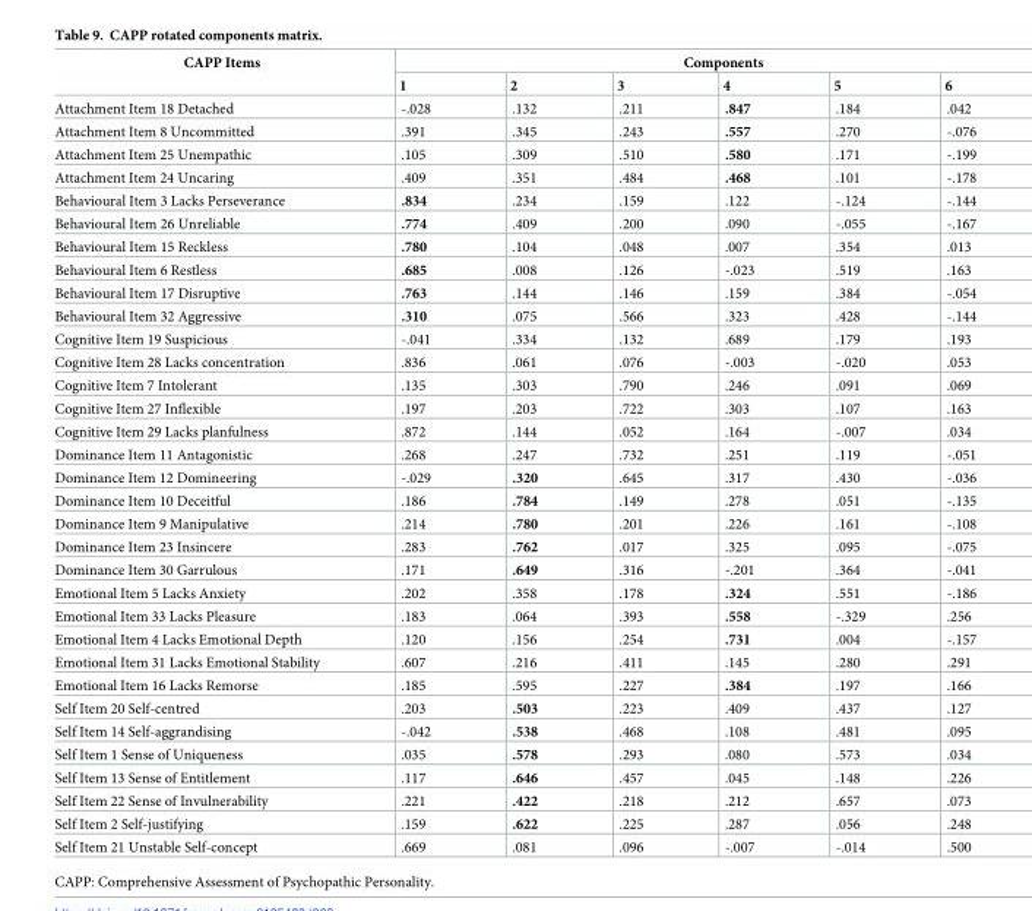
<table><thead><tr><td rowspan="2">CAPP Items</td><td colspan="6">Components</td></tr><tr><td>1</td><td>2</td><td>3</td><td>4</td><td>5</td><td>6</td></tr></thead><tbody><tr><td>Attachment Item 18 Detached</td><td>-.028</td><td>.132</td><td>.211</td><td>.847</td><td>.184</td><td>.042</td></tr><tr><td>Attachment Item 8 Uncommitted</td><td>.391</td><td>.345</td><td>.243</td><td>.557</td><td>.270</td><td>-.076</td></tr><tr><td>Attachment Item 25 Unempathic</td><td>.105</td><td>.309</td><td>.510</td><td>.580</td><td>.171</td><td>-.199</td></tr><tr><td>Attachment Item 24 Uncaring</td><td>.409</td><td>.351</td><td>.484</td><td>.468</td><td>.101</td><td>-.178</td></tr><tr><td>Behavioural Item 3 Lacks Perseverance</td><td>.834</td><td>.234</td><td>.159</td><td>.122</td><td>-.124</td><td>-.144</td></tr><tr><td>Behavioural Item 26 Unreliable</td><td>.774</td><td>.409</td><td>.200</td><td>.090</td><td>-.055</td><td>-.167</td></tr><tr><td>Behavioural Item 15 Reckless</td><td>.780</td><td>.104</td><td>.048</td><td>.007</td><td>.354</td><td>.013</td></tr><tr><td>Behavioural Item 6 Restless</td><td>.685</td><td>.008</td><td>.126</td><td>-.023</td><td>.519</td><td>.163</td></tr><tr><td>Behavioural Item 17 Disruptive</td><td>.763</td><td>.144</td><td>.146</td><td>.159</td><td>.384</td><td>-.054</td></tr><tr><td>Behavioural Item 32 Aggressive</td><td>.310</td><td>.075</td><td>.566</td><td>.323</td><td>.428</td><td>-.144</td></tr><tr><td>Cognitive Item 19 Suspicious</td><td>-.041</td><td>.334</td><td>.132</td><td>.689</td><td>.179</td><td>.193</td></tr><tr><td>Cognitive Item 28 Lacks concentration</td><td>.836</td><td>.061</td><td>.076</td><td>-.003</td><td>-.020</td><td>.053</td></tr><tr><td>Cognitive Item 7 Intolerant</td><td>.135</td><td>.303</td><td>.790</td><td>.246</td><td>.091</td><td>.069</td></tr><tr><td>Cognitive Item 27 Inflexible</td><td>.197</td><td>.203</td><td>.722</td><td>.303</td><td>.107</td><td>.163</td></tr><tr><td>Cognitive Item 29 Lacks planfulness</td><td>.872</td><td>.144</td><td>.052</td><td>.164</td><td>-.007</td><td>.034</td></tr><tr><td>Dominance Item 11 Antagonistic</td><td>.268</td><td>.247</td><td>.732</td><td>.251</td><td>.119</td><td>-.051</td></tr><tr><td>Dominance Item 12 Domineering</td><td>-.029</td><td>.320</td><td>.645</td><td>.317</td><td>.430</td><td>-.036</td></tr><tr><td>Dominance Item 10 Deceitful</td><td>.186</td><td>.784</td><td>.149</td><td>.278</td><td>.051</td><td>-.135</td></tr><tr><td>Dominance Item 9 Manipulative</td><td>.214</td><td>.780</td><td>.201</td><td>.226</td><td>.161</td><td>-.108</td></tr><tr><td>Dominance Item 23 Insincere</td><td>.283</td><td>.762</td><td>.017</td><td>.325</td><td>.095</td><td>-.075</td></tr><tr><td>Dominance Item 30 Garrulous</td><td>.171</td><td>.649</td><td>.316</td><td>-.201</td><td>.364</td><td>-.041</td></tr><tr><td>Emotional Item 5 Lacks Anxiety</td><td>.202</td><td>.358</td><td>.178</td><td>.324</td><td>.551</td><td>-.186</td></tr><tr><td>Emotional Item 33 Lacks Pleasure</td><td>.183</td><td>.064</td><td>.393</td><td>.558</td><td>-.329</td><td>.256</td></tr><tr><td>Emotional Item 4 Lacks Emotional Depth</td><td>.120</td><td>.156</td><td>.254</td><td>.731</td><td>.004</td><td>-.157</td></tr><tr><td>Emotional Item 31 Lacks Emotional Stability</td><td>.607</td><td>.216</td><td>.411</td><td>.145</td><td>.280</td><td>.291</td></tr><tr><td>Emotional Item 16 Lacks Remorse</td><td>.185</td><td>.595</td><td>.227</td><td>.384</td><td>.197</td><td>.166</td></tr><tr><td>Self Item 20 Self-centred</td><td>.203</td><td>.503</td><td>.223</td><td>.409</td><td>.437</td><td>.127</td></tr><tr><td>Self Item 14 Self-aggrandising</td><td>-.042</td><td>.538</td><td>.468</td><td>.108</td><td>.481</td><td>.095</td></tr><tr><td>Self Item 1 Sense of Uniqueness</td><td>.035</td><td>.578</td><td>.293</td><td>.080</td><td>.573</td><td>.034</td></tr><tr><td>Self Item 13 Sense of Entitlement</td><td>.117</td><td>.646</td><td>.457</td><td>.045</td><td>.148</td><td>.226</td></tr><tr><td>Self Item 22 Sense of Invulnerability</td><td>.221</td><td>.422</td><td>.218</td><td>.212</td><td>.657</td><td>.073</td></tr><tr><td>Self Item 2 Self-justifying</td><td>.159</td><td>.622</td><td>.225</td><td>.287</td><td>.056</td><td>.248</td></tr><tr><td>Self Item 21 Unstable Self-concept</td><td>.669</td><td>.081</td><td>.096</td><td>-.007</td><td>-.014</td><td>.500</td></tr></tbody></table>